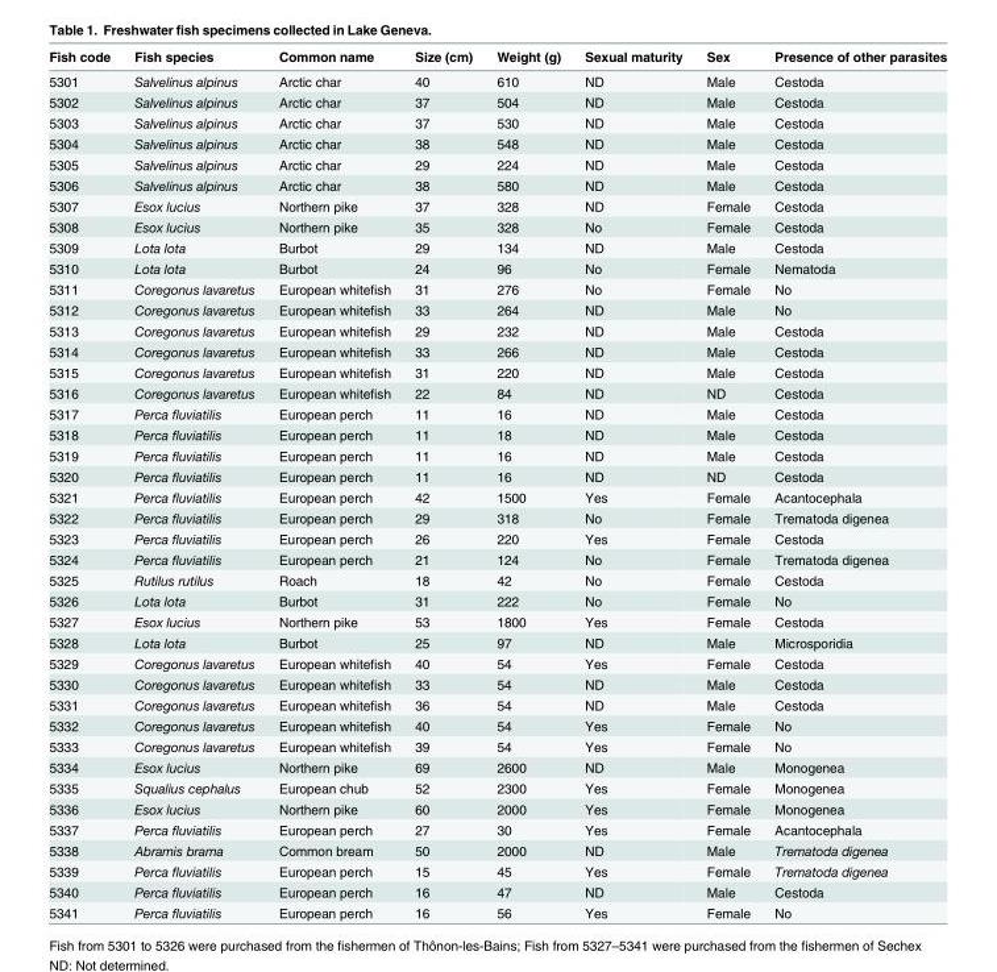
<table><thead><tr><td>Fish code</td><td>Fish species</td><td>Common name</td><td>Size (cm)</td><td>Weight (g)</td><td>Sexual maturity</td><td>Sex</td><td>Presence of other parasites</td></tr></thead><tbody><tr><td>5301</td><td>Salvelinus alpinus</td><td>Arctic char</td><td>40</td><td>610</td><td>ND</td><td>Male</td><td>Cestoda</td></tr><tr><td>5302</td><td>Salvelinus alpinus</td><td>Arctic char</td><td>37</td><td>504</td><td>ND</td><td>Male</td><td>Cestoda</td></tr><tr><td>5303</td><td>Salvelinus alpinus</td><td>Arctic char</td><td>37</td><td>530</td><td>ND</td><td>Male</td><td>Cestoda</td></tr><tr><td>5304</td><td>Salvelinus alpinus</td><td>Arctic char</td><td>38</td><td>548</td><td>ND</td><td>Male</td><td>Cestoda</td></tr><tr><td>5305</td><td>Salvelinus alpinus</td><td>Arctic char</td><td>29</td><td>224</td><td>ND</td><td>Male</td><td>Cestoda</td></tr><tr><td>5306</td><td>Salvelinus alpinus</td><td>Arctic char</td><td>38</td><td>580</td><td>ND</td><td>Male</td><td>Cestoda</td></tr><tr><td>5307</td><td>Esox lucius</td><td>Northern pike</td><td>37</td><td>328</td><td>ND</td><td>Female</td><td>Cestoda</td></tr><tr><td>5308</td><td>Esox lucius</td><td>Northern pike</td><td>35</td><td>328</td><td>No</td><td>Female</td><td>Cestoda</td></tr><tr><td>5309</td><td>Lota lota</td><td>Burbot</td><td>29</td><td>134</td><td>ND</td><td>Male</td><td>Cestoda</td></tr><tr><td>5310</td><td>Lota lota</td><td>Burbot</td><td>24</td><td>96</td><td>No</td><td>Female</td><td>Nematoda</td></tr><tr><td>5311</td><td>Coregonus lavaretus</td><td>European whitefish</td><td>31</td><td>276</td><td>No</td><td>Female</td><td>No</td></tr><tr><td>5312</td><td>Coregonus lavaretus</td><td>European whitefish</td><td>33</td><td>264</td><td>ND</td><td>Male</td><td>No</td></tr><tr><td>5313</td><td>Coregonus lavaretus</td><td>European whitefish</td><td>29</td><td>232</td><td>ND</td><td>Male</td><td>Cestoda</td></tr><tr><td>5314</td><td>Coregonus lavaretus</td><td>European whitefish</td><td>33</td><td>266</td><td>ND</td><td>Male</td><td>Cestoda</td></tr><tr><td>5315</td><td>Coregonus lavaretus</td><td>European whitefish</td><td>31</td><td>220</td><td>ND</td><td>Male</td><td>Cestoda</td></tr><tr><td>5316</td><td>Coregonus lavaretus</td><td>European whitefish</td><td>22</td><td>84</td><td>ND</td><td>ND</td><td>Cestoda</td></tr><tr><td>5317</td><td>Perca fluviatilis</td><td>European perch</td><td>11</td><td>16</td><td>ND</td><td>Male</td><td>Cestoda</td></tr><tr><td>5318</td><td>Perca fluviatilis</td><td>European perch</td><td>11</td><td>18</td><td>ND</td><td>Male</td><td>Cestoda</td></tr><tr><td>5319</td><td>Perca fluviatilis</td><td>European perch</td><td>11</td><td>16</td><td>ND</td><td>Male</td><td>Cestoda</td></tr><tr><td>5320</td><td>Perca fluviatilis</td><td>European perch</td><td>11</td><td>16</td><td>ND</td><td>ND</td><td>Cestoda</td></tr><tr><td>5321</td><td>Perca fluviatilis</td><td>European perch</td><td>42</td><td>1500</td><td>Yes</td><td>Female</td><td>Acantocephala</td></tr><tr><td>5322</td><td>Perca fluviatilis</td><td>European perch</td><td>29</td><td>318</td><td>No</td><td>Female</td><td>Trematoda digenea</td></tr><tr><td>5323</td><td>Perca fluviatilis</td><td>European perch</td><td>26</td><td>220</td><td>Yes</td><td>Female</td><td>Cestoda</td></tr><tr><td>5324</td><td>Perca fluviatilis</td><td>European perch</td><td>21</td><td>124</td><td>No</td><td>Female</td><td>Trematoda digenea</td></tr><tr><td>5325</td><td>Rutilus rutilus</td><td>Roach</td><td>18</td><td>42</td><td>No</td><td>Female</td><td>Cestoda</td></tr><tr><td>5326</td><td>Lota lota</td><td>Burbot</td><td>31</td><td>222</td><td>No</td><td>Female</td><td>No</td></tr><tr><td>5327</td><td>Esox lucius</td><td>Northern pike</td><td>53</td><td>1800</td><td>Yes</td><td>Female</td><td>Cestoda</td></tr><tr><td>5328</td><td>Lota lota</td><td>Burbot</td><td>25</td><td>97</td><td>ND</td><td>Male</td><td>Microsporidia</td></tr><tr><td>5329</td><td>Coregonus lavaretus</td><td>European whitefish</td><td>40</td><td>54</td><td>Yes</td><td>Female</td><td>Cestoda</td></tr><tr><td>5330</td><td>Coregonus lavaretus</td><td>European whitefish</td><td>33</td><td>54</td><td>ND</td><td>Male</td><td>Cestoda</td></tr><tr><td>5331</td><td>Coregonus lavaretus</td><td>European whitefish</td><td>36</td><td>54</td><td>ND</td><td>Male</td><td>Cestoda</td></tr><tr><td>5332</td><td>Coregonus lavaretus</td><td>European whitefish</td><td>40</td><td>54</td><td>Yes</td><td>Female</td><td>No</td></tr><tr><td>5333</td><td>Coregonus lavaretus</td><td>European whitefish</td><td>39</td><td>54</td><td>Yes</td><td>Female</td><td>No</td></tr><tr><td>5334</td><td>Esox lucius</td><td>Northern pike</td><td>69</td><td>2600</td><td>ND</td><td>Male</td><td>Monogenea</td></tr><tr><td>5335</td><td>Squalius cephalus</td><td>European chub</td><td>52</td><td>2300</td><td>Yes</td><td>Female</td><td>Monogenea</td></tr><tr><td>5336</td><td>Esox lucius</td><td>Northern pike</td><td>60</td><td>2000</td><td>Yes</td><td>Female</td><td>Monogenea</td></tr><tr><td>5337</td><td>Perca fluviatilis</td><td>European perch</td><td>27</td><td>30</td><td>Yes</td><td>Female</td><td>Acantocephala</td></tr><tr><td>5338</td><td>Abramis brama</td><td>Common bream</td><td>50</td><td>2000</td><td>ND</td><td>Male</td><td>Trematoda digenea</td></tr><tr><td>5339</td><td>Perca fluviatilis</td><td>European perch</td><td>15</td><td>45</td><td>Yes</td><td>Female</td><td>Trematoda digenea</td></tr><tr><td>5340</td><td>Perca fluviatilis</td><td>European perch</td><td>16</td><td>47</td><td>ND</td><td>Male</td><td>Cestoda</td></tr><tr><td>5341</td><td>Perca fluviatilis</td><td>European perch</td><td>16</td><td>56</td><td>Yes</td><td>Female</td><td>No</td></tr></tbody></table>